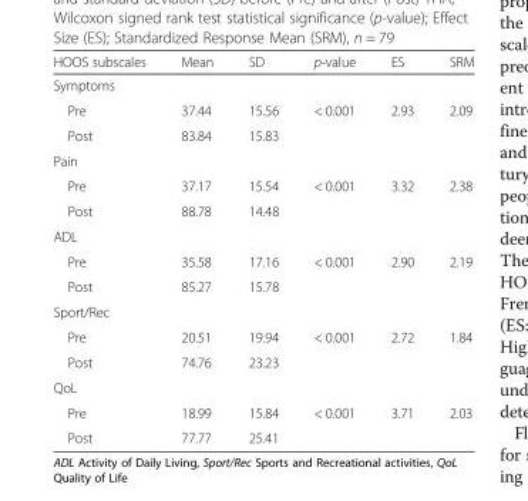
<table><thead><tr><td>HOOS subscales</td><td>Mean</td><td>SD</td><td>p-value</td><td>ES</td><td>SRM</td></tr></thead><tbody><tr><td colspan="6">Symptoms</td></tr><tr><td>Pre</td><td>37.44</td><td>15.56</td><td rowspan="2">&lt; 0.001</td><td rowspan="2">2.93</td><td rowspan="2">2.09</td></tr><tr><td>Post</td><td>83.84</td><td>15.83</td></tr><tr><td colspan="6">Pain</td></tr><tr><td>Pre</td><td>37.17</td><td>15.54</td><td rowspan="2">&lt; 0.001</td><td rowspan="2">3.32</td><td rowspan="2">2.38</td></tr><tr><td>Post</td><td>88.78</td><td>14.48</td></tr><tr><td colspan="6">ADL</td></tr><tr><td>Pre</td><td>35.58</td><td>17.16</td><td rowspan="2">&lt; 0.001</td><td rowspan="2">2.90</td><td rowspan="2">2.19</td></tr><tr><td>Post</td><td>85.27</td><td>15.78</td></tr><tr><td colspan="6">Sport/Rec</td></tr><tr><td>Pre</td><td>20.51</td><td>19.94</td><td rowspan="2">&lt; 0.001</td><td rowspan="2">2.72</td><td rowspan="2">1.84</td></tr><tr><td>Post</td><td>74.76</td><td>23.23</td></tr><tr><td colspan="6">QoL</td></tr><tr><td>Pre</td><td>18.99</td><td>15.84</td><td rowspan="2">&lt; 0.001</td><td rowspan="2">3.71</td><td rowspan="2">2.03</td></tr><tr><td>Post</td><td>77.77</td><td>25.41</td></tr></tbody></table>